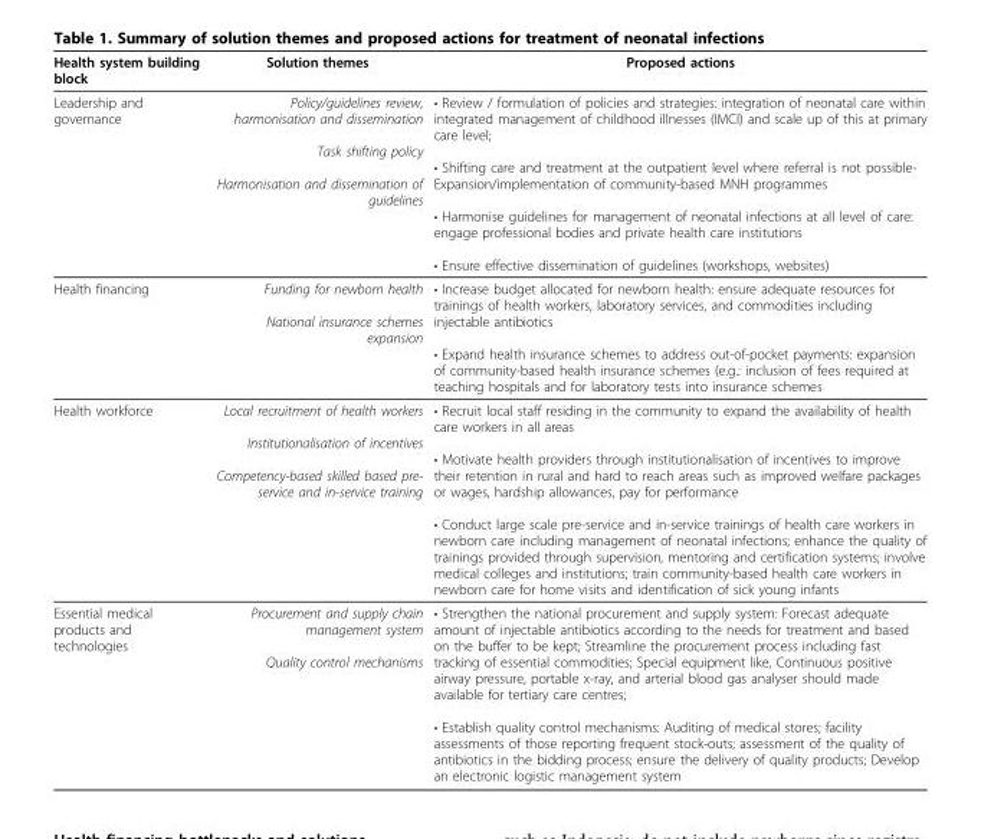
<table><thead><tr><td>Health system building block</td><td>Solution themes</td><td>Proposed actions</td></tr></thead><tbody><tr><td>Leadership and governance</td><td>Policy/guidelines review, harmonisation and dissemination Task shifting policy Harmonisation and dissemination of guidelines</td><td>• Review / formulation of policies and strategies: integration of neonatal care within integrated management of childhood illnesses (IMCI) and scale up of this at primary care level; • Shifting care and treatment at the outpatient level where referral is not possible- Expansion/implementation of community-based MNH programmes • Harmonise guidelines for management of neonatal infections at all level of care: engage professional bodies and private health care institutions • Ensure effective dissemination of guidelines (workshops, websites)</td></tr><tr><td>Health financing</td><td>Funding for newborn health National insurance schemes expansion</td><td>• Increase budget allocated for newborn health: ensure adequate resources for trainings of health workers, laboratory services, and commodities including injectable antibiotics • Expand health insurance schemes to address out-of-pocket payments: expansion of community-based health insurance schemes (e.g.: inclusion of fees required at teaching hospitals and for laboratory tests into insurance schemes</td></tr><tr><td>Health workforce</td><td>Local recruitment of health workers Institutionalisation of incentives Competency-based skilled based pre- service and in-service training</td><td>• Recruit local staff residing in the community to expand the availability of health care workers in all areas • Motivate health providers through institutionalisation of incentives to improve their retention in rural and hard to reach areas such as improved welfare packages or wages, hardship allowances, pay for performance • Conduct large scale pre-service and in-service trainings of health care workers in newborn care including management of neonatal infections; enhance the quality of trainings provided through supervision, mentoring and certification systems; involve medical colleges and institutions; train community-based health care workers in newborn care for home visits and identification of sick young infants</td></tr><tr><td>Essential medical products and technologies</td><td>Procurement and supply chain management system Quality control mechanisms</td><td>• Strengthen the national procurement and supply system: Forecast adequate amount of injectable antibiotics according to the needs for treatment and based on the buffer to be kept; Streamline the procurement process including fast tracking of essential commodities; Special equipment like, Continuous positive airway pressure, portable x-ray, and arterial blood gas analyser should made available for tertiary care centres; • Establish quality control mechanisms: Auditing of medical stores; facility assessments of those reporting frequent stock-outs; assessment of the quality of antibiotics in the bidding process; ensure the delivery of quality products; Develop an electronic logistic management system</td></tr></tbody></table>